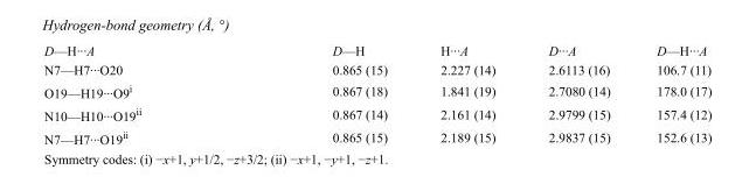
<table><tbody><tr><td>D—H···A</td><td>D—H</td><td>H···A</td><td>D···A</td><td>D—H···A</td></tr><tr><td>N7—H7···O20</td><td>0.865 (15)</td><td>2.227 (14)</td><td>2.6113 (16)</td><td>106.7 (11)</td></tr><tr><td>O19—H19···O9<sup>i</sup></td><td>0.867 (18)</td><td>1.841 (19)</td><td>2.7080 (14)</td><td>178.0 (17)</td></tr><tr><td>N10—H10···O19<sup>ii</sup></td><td>0.867 (14)</td><td>2.161 (14)</td><td>2.9799 (15)</td><td>157.4 (12)</td></tr><tr><td>N7—H7···O19<sup>ii</sup></td><td>0.865 (15)</td><td>2.189 (15)</td><td>2.9837 (15)</td><td>152.6 (13)</td></tr></tbody></table>